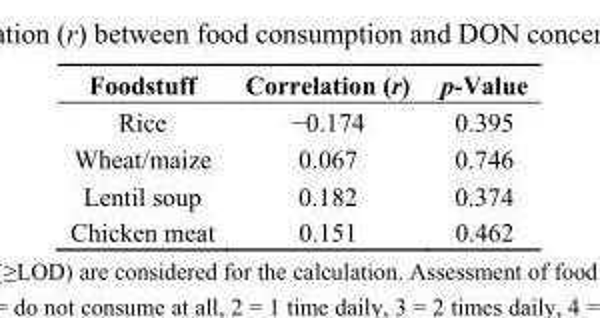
<table><thead><tr><td>Foodstuff</td><td>Correlation (r)</td><td>p-Value</td></tr></thead><tbody><tr><td>Rice</td><td>−0.174</td><td>0.395</td></tr><tr><td>Wheat/maize</td><td>0.067</td><td>0.746</td></tr><tr><td>Lentil soup</td><td>0.182</td><td>0.374</td></tr><tr><td>Chicken meat</td><td>0.151</td><td>0.462</td></tr></tbody></table>